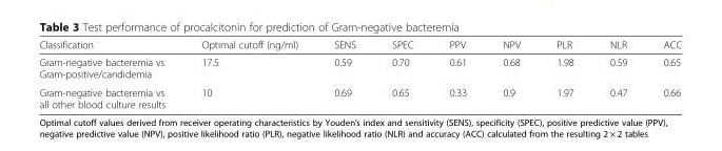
<table><thead><tr><td>Classification</td><td>Optimal cutoff (ng/ml)</td><td>SENS</td><td>SPEC</td><td>PPV</td><td>NPV</td><td>PLR</td><td>NLR</td><td>ACC</td></tr></thead><tbody><tr><td>Gram-negative bacteremia vs Gram-positive/candidemia</td><td>17.5</td><td>0.59</td><td>0.70</td><td>0.61</td><td>0.68</td><td>1.98</td><td>0.59</td><td>0.65</td></tr><tr><td>Gram-negative bacteremia vs all other blood culture results</td><td>10</td><td>0.69</td><td>0.65</td><td>0.33</td><td>0.9</td><td>1.97</td><td>0.47</td><td>0.66</td></tr></tbody></table>